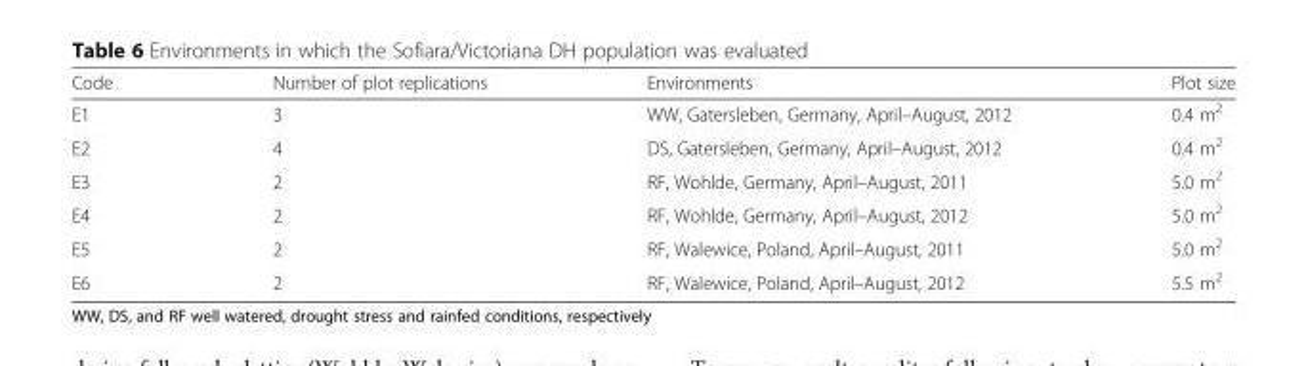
<table><thead><tr><td>Code</td><td>Number of plot replications</td><td>Environments</td><td>Plot size</td></tr></thead><tbody><tr><td>E1</td><td>3</td><td>WW, Gatersleben, Germany, April–August, 2012</td><td>0.4 m<sup>2</sup></td></tr><tr><td>E2</td><td>4</td><td>DS, Gatersleben, Germany, April–August, 2012</td><td>0.4 m<sup>2</sup></td></tr><tr><td>E3</td><td>2</td><td>RF, Wohlde, Germany, April–August, 2011</td><td>5.0 m<sup>2</sup></td></tr><tr><td>E4</td><td>2</td><td>RF, Wohlde, Germany, April–August, 2012</td><td>5.0 m<sup>2</sup></td></tr><tr><td>E5</td><td>2</td><td>RF, Walewice, Poland, April–August, 2011</td><td>5.0 m<sup>2</sup></td></tr><tr><td>E6</td><td>2</td><td>RF, Walewice, Poland, April–August, 2012</td><td>5.5 m<sup>2</sup></td></tr></tbody></table>